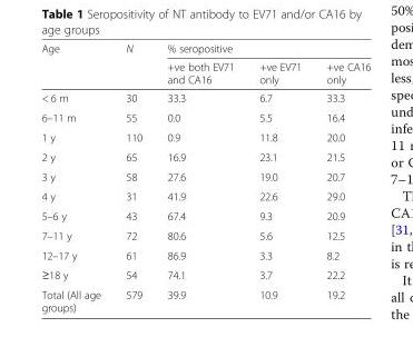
<table><thead><tr><td rowspan="2">Age</td><td rowspan="2">N</td><td colspan="3">% seropositive</td></tr><tr><td>+ve both EV71 and CA16</td><td>+ve EV71 only</td><td>+ve CA16 only</td></tr></thead><tbody><tr><td>&lt; 6 m</td><td>30</td><td>33.3</td><td>6.7</td><td>33.3</td></tr><tr><td>6–11 m</td><td>55</td><td>0.0</td><td>5.5</td><td>16.4</td></tr><tr><td>1 y</td><td>110</td><td>0.9</td><td>11.8</td><td>20.0</td></tr><tr><td>2 y</td><td>65</td><td>16.9</td><td>23.1</td><td>21.5</td></tr><tr><td>3 y</td><td>58</td><td>27.6</td><td>19.0</td><td>20.7</td></tr><tr><td>4 y</td><td>31</td><td>41.9</td><td>22.6</td><td>29.0</td></tr><tr><td>5–6 y</td><td>43</td><td>67.4</td><td>9.3</td><td>20.9</td></tr><tr><td>7–11 y</td><td>72</td><td>80.6</td><td>5.6</td><td>12.5</td></tr><tr><td>12–17 y</td><td>61</td><td>86.9</td><td>3.3</td><td>8.2</td></tr><tr><td>≥18 y</td><td>54</td><td>74.1</td><td>3.7</td><td>22.2</td></tr><tr><td>Total (All age groups)</td><td>579</td><td>39.9</td><td>10.9</td><td>19.2</td></tr></tbody></table>